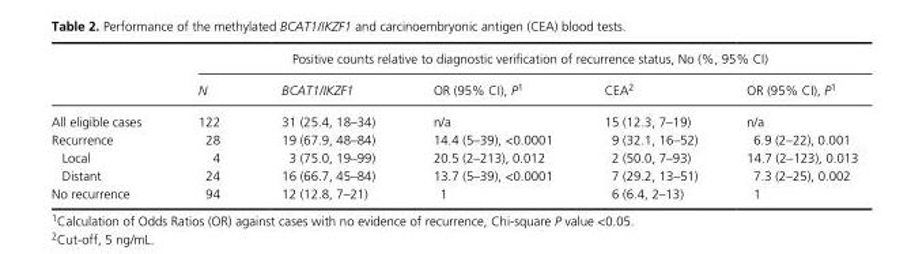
<table><thead><tr><td rowspan="2"></td><td colspan="5">Positive counts relative to diagnostic verification of recurrence status, No (%, 95% CI)</td></tr><tr><td>N</td><td>BCAT1/IKZF1</td><td>OR (95% CI), P1</td><td>CEA2</td><td>OR (95% CI), P1</td></tr></thead><tbody><tr><td>All eligible cases</td><td>122</td><td>31 (25.4, 18–34)</td><td>n/a</td><td>15 (12.3, 7–19)</td><td>n/a</td></tr><tr><td>Recurrence</td><td>28</td><td>19 (67.9, 48–84)</td><td>14.4 (5–39), &lt;0.0001</td><td>9 (32.1, 16–52)</td><td>6.9 (2–22), 0.001</td></tr><tr><td>Local</td><td>4</td><td>3 (75.0, 19–99)</td><td>20.5 (2–213), 0.012</td><td>2 (50.0, 7–93)</td><td>14.7 (2–123), 0.013</td></tr><tr><td>Distant</td><td>24</td><td>16 (66.7, 45–84)</td><td>13.7 (5–39), &lt;0.0001</td><td>7 (29.2, 13–51)</td><td>7.3 (2–25), 0.002</td></tr><tr><td>No recurrence</td><td>94</td><td>12 (12.8, 7–21)</td><td>1</td><td>6 (6.4, 2–13)</td><td>1</td></tr></tbody></table>